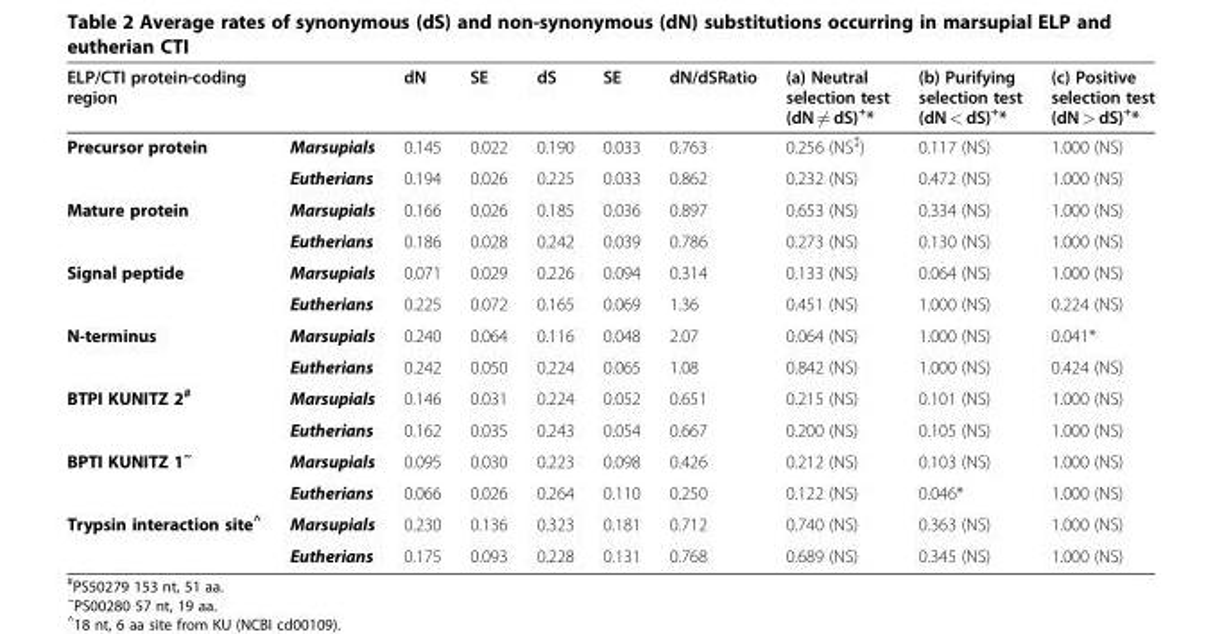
<table><thead><tr><td colspan="2">ELP/CTI protein-coding region</td><td rowspan="2">dN 0.145</td><td rowspan="2">SE 0.022</td><td rowspan="2">dS 0.190</td><td rowspan="2">SE 0.033</td><td rowspan="2">dN/dSRatio 0.763</td><td rowspan="2">(a) Neutral selection test (dN 6¼ dS)+* 0.256 (NS{)</td><td rowspan="2">(b) Purifying selection test (dN &lt; dS)<sup>+</sup>* 0.117 (NS)</td><td rowspan="2">(c) Positive selection test (dN &gt; dS)<sup>+</sup>* 1.000 (NS)</td></tr><tr><td>Precursor protein</td><td>Marsupials</td></tr></thead><tbody><tr><td></td><td>Eutherians</td><td>0.194</td><td>0.026</td><td>0.225</td><td>0.033</td><td>0.862</td><td>0.232 (NS)</td><td>0.472 (NS)</td><td>1.000 (NS)</td></tr><tr><td rowspan="2">Mature protein</td><td>Marsupials</td><td>0.166</td><td>0.026</td><td>0.185</td><td>0.036</td><td>0.897</td><td>0.653 (NS)</td><td>0.334 (NS)</td><td>1.000 (NS)</td></tr><tr><td>Eutherians</td><td>0.186</td><td>0.028</td><td>0.242</td><td>0.039</td><td>0.786</td><td>0.273 (NS)</td><td>0.130 (NS)</td><td>1.000 (NS)</td></tr><tr><td rowspan="2">Signal peptide</td><td>Marsupials</td><td>0.071</td><td>0.029</td><td>0.226</td><td>0.094</td><td>0.314</td><td>0.133 (NS)</td><td>0.064 (NS)</td><td>1.000 (NS)</td></tr><tr><td>Eutherians</td><td>0.225</td><td>0.072</td><td>0.165</td><td>0.069</td><td>1.36</td><td>0.451 (NS)</td><td>1.000 (NS)</td><td>0.224 (NS)</td></tr><tr><td rowspan="2">N-terminus</td><td>Marsupials</td><td>0.240</td><td>0.064</td><td>0.116</td><td>0.048</td><td>2.07</td><td>0.064 (NS)</td><td>1.000 (NS)</td><td>0.041*</td></tr><tr><td>Eutherians</td><td>0.242</td><td>0.050</td><td>0.224</td><td>0.065</td><td>1.08</td><td>0.842 (NS)</td><td>1.000 (NS)</td><td>0.424 (NS)</td></tr><tr><td rowspan="2">BTPI KUNITZ 2<sup>#</sup></td><td>Marsupials</td><td>0.146</td><td>0.031</td><td>0.224</td><td>0.052</td><td>0.651</td><td>0.215 (NS)</td><td>0.101 (NS)</td><td>1.000 (NS)</td></tr><tr><td>Eutherians</td><td>0.162</td><td>0.035</td><td>0.243</td><td>0.054</td><td>0.667</td><td>0.200 (NS)</td><td>0.105 (NS)</td><td>1.000 (NS)</td></tr><tr><td rowspan="2">BPTI KUNITZ 1<sup>~</sup></td><td>Marsupials</td><td>0.095</td><td>0.030</td><td>0.223</td><td>0.098</td><td>0.426</td><td>0.212 (NS)</td><td>0.103 (NS)</td><td>1.000 (NS)</td></tr><tr><td>Eutherians</td><td>0.066</td><td>0.026</td><td>0.264</td><td>0.110</td><td>0.250</td><td>0.122 (NS)</td><td>0.046*</td><td>1.000 (NS)</td></tr><tr><td rowspan="2">Trypsin interaction site<sup>^</sup></td><td>Marsupials</td><td>0.230</td><td>0.136</td><td>0.323</td><td>0.181</td><td>0.712</td><td>0.740 (NS)</td><td>0.363 (NS)</td><td>1.000 (NS)</td></tr><tr><td>Eutherians</td><td>0.175</td><td>0.093</td><td>0.228</td><td>0.131</td><td>0.768</td><td>0.689 (NS)</td><td>0.345 (NS)</td><td>1.000 (NS)</td></tr></tbody></table>